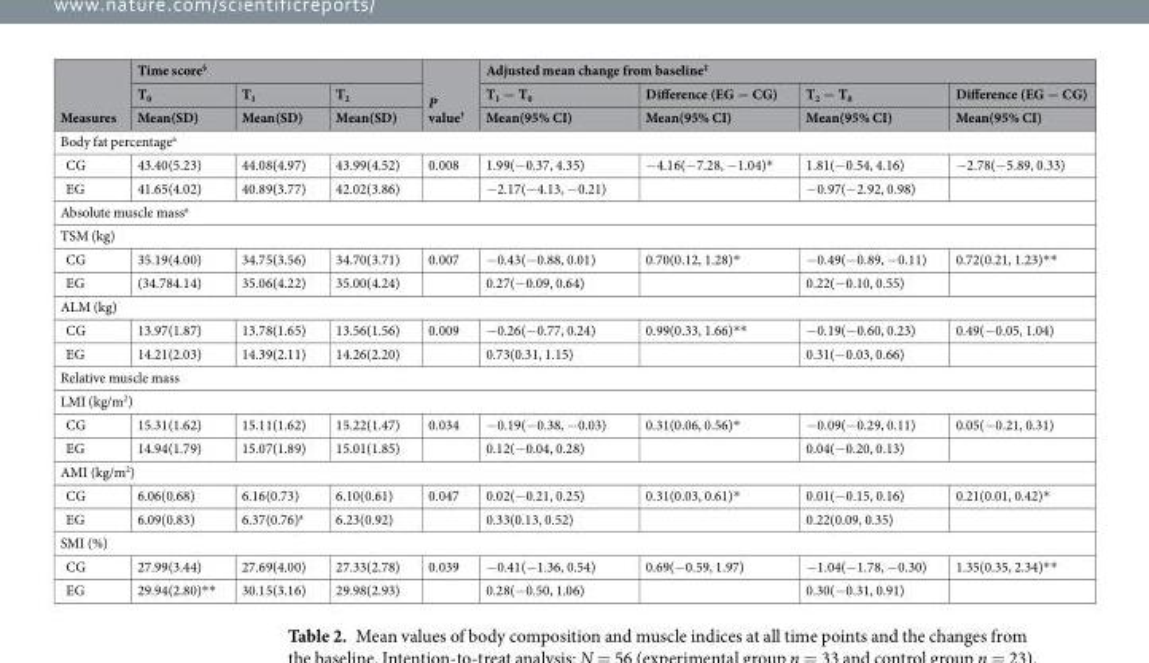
<table><thead><tr><td rowspan="3">Measures</td><td colspan="3">Time score<sup>§</sup></td><td rowspan="3">P value<sup>†</sup></td><td colspan="4">Adjusted mean change from baseline<sup>‡</sup></td></tr><tr><td rowspan="2">T<sub>0</sub> Mean(SD)</td><td rowspan="2">T<sub>1</sub> Mean(SD)</td><td rowspan="2">T<sub>2</sub> Mean(SD)</td><td rowspan="2">T<sub>1</sub> − T<sub>0</sub> Mean(95% CI)</td><td rowspan="2">Difference (EG − CG) Mean(95% CI)</td><td rowspan="2">T<sub>2</sub> − T<sub>0</sub> Mean(95% CI)</td><td rowspan="2">Difference (EG − CG) Mean(95% CI)</td></tr><tr></tr></thead><tbody><tr><td colspan="9">Body fat percentage<sup>a</sup></td></tr><tr><td>CG</td><td>43.40(5.23)</td><td>44.08(4.97)</td><td>43.99(4.52)</td><td>0.008</td><td>1.99(−0.37, 4.35)</td><td>−4.16(−7.28, −1.04)*</td><td>1.81(−0.54, 4.16)</td><td>−2.78(−5.89, 0.33)</td></tr><tr><td>EG</td><td>41.65(4.02)</td><td>40.89(3.77)</td><td>42.02(3.86)</td><td></td><td>−2.17(−4.13, −0.21)</td><td></td><td>−0.97(−2.92, 0.98)</td><td></td></tr><tr><td colspan="9">Absolute muscle mass<sup>a</sup></td></tr><tr><td colspan="9">TSM (kg)</td></tr><tr><td>CG</td><td>35.19(4.00)</td><td>34.75(3.56)</td><td>34.70(3.71)</td><td>0.007</td><td>−0.43(−0.88, 0.01)</td><td>0.70(0.12, 1.28)*</td><td>−0.49(−0.89, −0.11)</td><td>0.72(0.21, 1.23)**</td></tr><tr><td>EG</td><td>(34.784.14)</td><td>35.06(4.22)</td><td>35.00(4.24)</td><td></td><td>0.27(−0.09, 0.64)</td><td></td><td>0.22(−0.10, 0.55)</td><td></td></tr><tr><td colspan="9">ALM (kg)</td></tr><tr><td>CG</td><td>13.97(1.87)</td><td>13.78(1.65)</td><td>13.56(1.56)</td><td>0.009</td><td>−0.26(−0.77, 0.24)</td><td>0.99(0.33, 1.66)**</td><td>−0.19(−0.60, 0.23)</td><td>0.49(−0.05, 1.04)</td></tr><tr><td>EG</td><td>14.21(2.03)</td><td>14.39(2.11)</td><td>14.26(2.20)</td><td></td><td>0.73(0.31, 1.15)</td><td></td><td>0.31(−0.03, 0.66)</td><td></td></tr><tr><td colspan="9">Relative muscle mass</td></tr><tr><td colspan="9">LMI (kg/m<sup>2</sup>)</td></tr><tr><td>CG</td><td>15.31(1.62)</td><td>15.11(1.62)</td><td>15.22(1.47)</td><td>0.034</td><td>−0.19(−0.38, −0.03)</td><td>0.31(0.06, 0.56)*</td><td>−0.09(−0.29, 0.11)</td><td>0.05(−0.21, 0.31)</td></tr><tr><td>EG</td><td>14.94(1.79)</td><td>15.07(1.89)</td><td>15.01(1.85)</td><td></td><td>0.12(−0.04, 0.28)</td><td></td><td>0.04(−0.20, 0.13)</td><td></td></tr><tr><td colspan="9">AMI (kg/m<sup>2</sup>)</td></tr><tr><td>CG</td><td>6.06(0.68)</td><td>6.16(0.73)</td><td>6.10(0.61)</td><td>0.047</td><td>0.02(−0.21, 0.25)</td><td>0.31(0.03, 0.61)*</td><td>0.01(−0.15, 0.16)</td><td>0.21(0.01, 0.42)*</td></tr><tr><td>EG</td><td>6.09(0.83)</td><td>6.37(0.76)<sup>a</sup></td><td>6.23(0.92)</td><td></td><td>0.33(0.13, 0.52)</td><td></td><td>0.22(0.09, 0.35)</td><td></td></tr><tr><td colspan="9">SMI (%)</td></tr><tr><td>CG</td><td>27.99(3.44)</td><td>27.69(4.00)</td><td>27.33(2.78)</td><td>0.039</td><td>−0.41(−1.36, 0.54)</td><td>0.69(−0.59, 1.97)</td><td>−1.04(−1.78, −0.30)</td><td>1.35(0.35, 2.34)**</td></tr><tr><td>EG</td><td>29.94(2.80)**</td><td>30.15(3.16)</td><td>29.98(2.93)</td><td></td><td>0.28(−0.50, 1.06)</td><td></td><td>0.30(−0.31, 0.91)</td><td></td></tr></tbody></table>